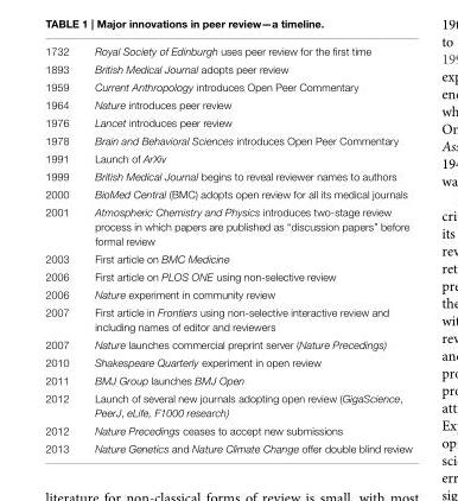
<table><tbody><tr><td>1732</td><td>Royal Society of Edinburgh uses peer review for the first time</td></tr><tr><td>1893</td><td>British Medical Journal adopts peer review</td></tr><tr><td>1959</td><td>Current Anthropology introduces Open Peer Commentary</td></tr><tr><td>1964</td><td>Nature introduces peer review</td></tr><tr><td>1976</td><td>Lancet introduces peer review</td></tr><tr><td>1978</td><td>Brain and Behavioral Sciences introduces Open Peer Commentary</td></tr><tr><td>1991</td><td>Launch of ArXiv</td></tr><tr><td>1999</td><td>British Medical Journal begins to reveal reviewer names to authors</td></tr><tr><td>2000</td><td>BioMed Central (BMC) adopts open review for all its medical journals</td></tr><tr><td>2001</td><td>Atmospheric Chemistry and Physics introduces two-stage review process in which papers are published as “discussion papers” before formal review</td></tr><tr><td>2003</td><td>First article on BMC Medicine</td></tr><tr><td>2006</td><td>First article on PLOS ONE using non-selective review</td></tr><tr><td>2006</td><td>Nature experiment in community review</td></tr><tr><td>2007</td><td>First article in Frontiers using non-selective interactive review and including names of editor and reviewers</td></tr><tr><td>2007</td><td>Nature launches commercial preprint server (Nature Precedings)</td></tr><tr><td>2010</td><td>Shakespeare Quarterly experiment in open review</td></tr><tr><td>2011</td><td>BMJ Group launches BMJ Open</td></tr><tr><td>2012</td><td>Launch of several new journals adopting open review (GigaScience, PeerJ, eLife, F1000 research)</td></tr><tr><td>2012</td><td>Nature Precedings ceases to accept new submissions</td></tr><tr><td>2013</td><td>Nature Genetics and Nature Climate Change offer double blind review</td></tr></tbody></table>